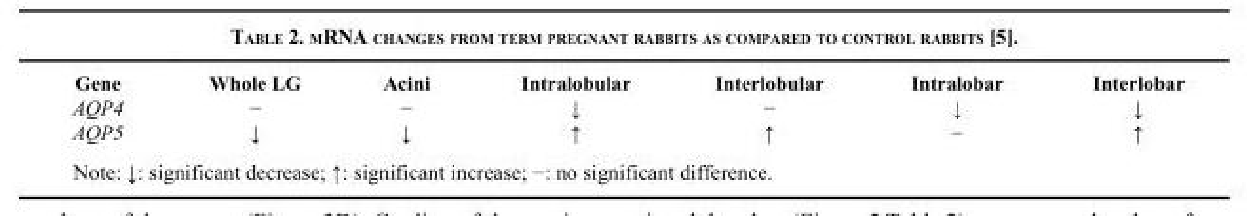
<table><thead><tr><td>Gene</td><td>Whole LG</td><td>Acini</td><td>Intralobular</td><td>Interlobular</td><td>Intralobar</td><td>Interlobar</td></tr></thead><tbody><tr><td>AQP4</td><td>−</td><td>−</td><td>↓</td><td>−</td><td>↓</td><td>↓</td></tr><tr><td>AQP5</td><td>↓</td><td>↓</td><td>↑</td><td>↑</td><td>−</td><td>↑</td></tr></tbody></table>